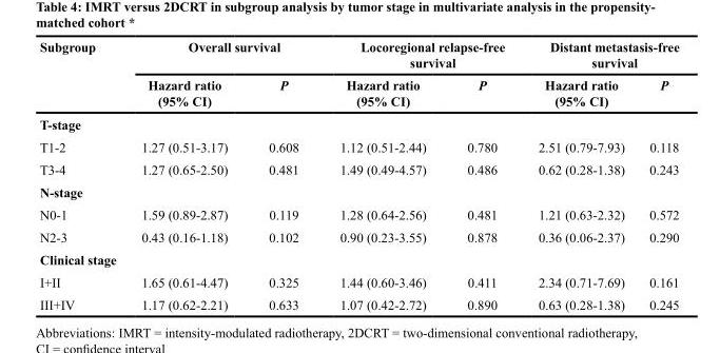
<table><thead><tr><td rowspan="2">Subgroup</td><td colspan="2">Overall survival</td><td colspan="2">Locoregional relapse-free survival</td><td colspan="2">Distant metastasis-free survival</td></tr><tr><td>Hazard ratio (95% CI)</td><td>P</td><td>Hazard ratio (95% CI)</td><td>P</td><td>Hazard ratio (95% CI)</td><td>P</td></tr></thead><tbody><tr><td colspan="7">T-stage</td></tr><tr><td>T1-2</td><td>1.27 (0.51-3.17)</td><td>0.608</td><td>1.12 (0.51-2.44)</td><td>0.780</td><td>2.51 (0.79-7.93)</td><td>0.118</td></tr><tr><td>T3-4</td><td>1.27 (0.65-2.50)</td><td>0.481</td><td>1.49 (0.49-4.57)</td><td>0.486</td><td>0.62 (0.28-1.38)</td><td>0.243</td></tr><tr><td colspan="7">N-stage</td></tr><tr><td>N0-1</td><td>1.59 (0.89-2.87)</td><td>0.119</td><td>1.28 (0.64-2.56)</td><td>0.481</td><td>1.21 (0.63-2.32)</td><td>0.572</td></tr><tr><td>N2-3</td><td>0.43 (0.16-1.18)</td><td>0.102</td><td>0.90 (0.23-3.55)</td><td>0.878</td><td>0.36 (0.06-2.37)</td><td>0.290</td></tr><tr><td colspan="7">Clinical stage</td></tr><tr><td>I+II</td><td>1.65 (0.61-4.47)</td><td>0.325</td><td>1.44 (0.60-3.46)</td><td>0.411</td><td>2.34 (0.71-7.69)</td><td>0.161</td></tr><tr><td>III+IV</td><td>1.17 (0.62-2.21)</td><td>0.633</td><td>1.07 (0.42-2.72)</td><td>0.890</td><td>0.63 (0.28-1.38)</td><td>0.245</td></tr></tbody></table>